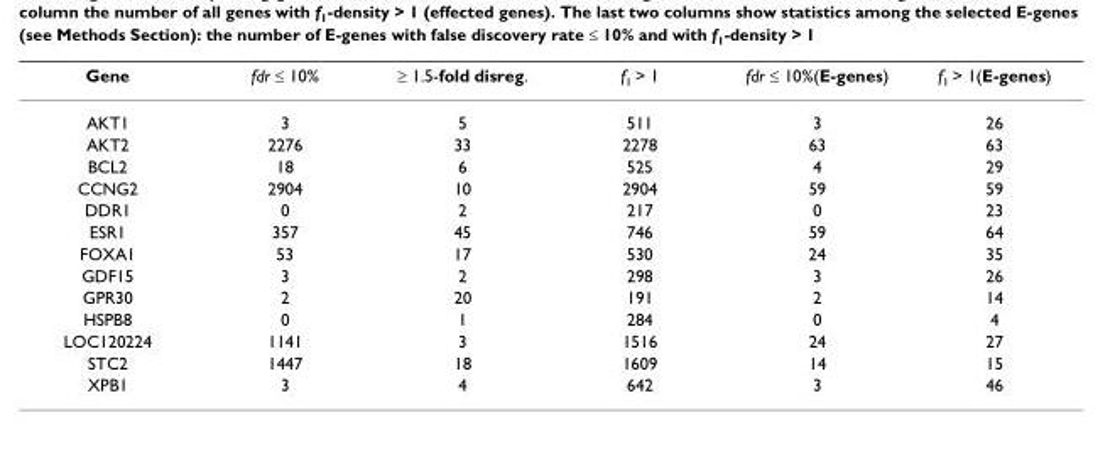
<table><thead><tr><td>Gene</td><td>fdr ≤ 10%</td><td>≥ 1.5-fold disreg.</td><td>f<sub>1</sub> &gt; 1</td><td>fdr ≤ 10%(E-genes)</td><td>f<sub>1</sub> &gt; 1(E-genes)</td></tr></thead><tbody><tr><td>AKT1</td><td>3</td><td>5</td><td>511</td><td>3</td><td>26</td></tr><tr><td>AKT2</td><td>2276</td><td>33</td><td>2278</td><td>63</td><td>63</td></tr><tr><td>BCL2</td><td>18</td><td>6</td><td>525</td><td>4</td><td>29</td></tr><tr><td>CCNG2</td><td>2904</td><td>10</td><td>2904</td><td>59</td><td>59</td></tr><tr><td>DDR1</td><td>0</td><td>2</td><td>217</td><td>0</td><td>23</td></tr><tr><td>ESR1</td><td>357</td><td>45</td><td>746</td><td>59</td><td>64</td></tr><tr><td>FOXA1</td><td>53</td><td>17</td><td>530</td><td>24</td><td>35</td></tr><tr><td>GDF15</td><td>3</td><td>2</td><td>298</td><td>3</td><td>26</td></tr><tr><td>GPR30</td><td>2</td><td>20</td><td>191</td><td>2</td><td>14</td></tr><tr><td>HSPB8</td><td>0</td><td>1</td><td>284</td><td>0</td><td>4</td></tr><tr><td>LOC120224</td><td>1141</td><td>3</td><td>1516</td><td>24</td><td>27</td></tr><tr><td>STC2</td><td>1447</td><td>18</td><td>1609</td><td>14</td><td>15</td></tr><tr><td>XPB1</td><td>3</td><td>4</td><td>642</td><td>3</td><td>46</td></tr></tbody></table>